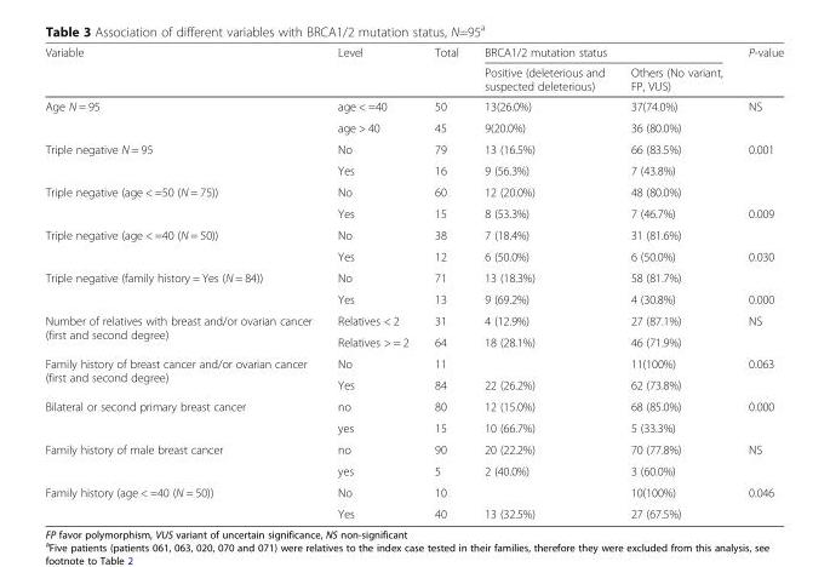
<table><thead><tr><td rowspan="2">Variable</td><td rowspan="2">Level</td><td rowspan="2">Total</td><td colspan="2">BRCA1/2 mutation status</td><td rowspan="2">P-value</td></tr><tr><td>Positive (deleterious and suspected deleterious)</td><td>Others (No variant, FP, VUS)</td></tr></thead><tbody><tr><td rowspan="2">Age N = 95</td><td>age &lt; =40</td><td>50</td><td>13(26.0%)</td><td>37(74.0%)</td><td>NS</td></tr><tr><td>age &gt; 40</td><td>45</td><td>9(20.0%)</td><td>36 (80.0%)</td><td></td></tr><tr><td rowspan="2">Triple negative N = 95</td><td>No</td><td>79</td><td>13 (16.5%)</td><td>66 (83.5%)</td><td>0.001</td></tr><tr><td>Yes</td><td>16</td><td>9 (56.3%)</td><td>7 (43.8%)</td><td></td></tr><tr><td rowspan="2">Triple negative (age &lt; =50 (N = 75))</td><td>No</td><td>60</td><td>12 (20.0%)</td><td>48 (80.0%)</td><td></td></tr><tr><td>Yes</td><td>15</td><td>8 (53.3%)</td><td>7 (46.7%)</td><td>0.009</td></tr><tr><td rowspan="2">Triple negative (age &lt; =40 (N = 50))</td><td>No</td><td>38</td><td>7 (18.4%)</td><td>31 (81.6%)</td><td></td></tr><tr><td>Yes</td><td>12</td><td>6 (50.0%)</td><td>6 (50.0%)</td><td>0.030</td></tr><tr><td rowspan="2">Triple negative (family history = Yes (N = 84))</td><td>No</td><td>71</td><td>13 (18.3%)</td><td>58 (81.7%)</td><td></td></tr><tr><td>Yes</td><td>13</td><td>9 (69.2%)</td><td>4 (30.8%)</td><td>0.000</td></tr><tr><td rowspan="2">Number of relatives with breast and/or ovarian cancer (first and second degree)</td><td>Relatives &lt; 2</td><td>31</td><td>4 (12.9%)</td><td>27 (87.1%)</td><td>NS</td></tr><tr><td>Relatives &gt; = 2</td><td>64</td><td>18 (28.1%)</td><td>46 (71.9%)</td><td></td></tr><tr><td rowspan="2">Family history of breast cancer and/or ovarian cancer (first and second degree)</td><td>No</td><td>11</td><td></td><td>11(100%)</td><td>0.063</td></tr><tr><td>Yes</td><td>84</td><td>22 (26.2%)</td><td>62 (73.8%)</td><td></td></tr><tr><td rowspan="2">Bilateral or second primary breast cancer</td><td>no</td><td>80</td><td>12 (15.0%)</td><td>68 (85.0%)</td><td>0.000</td></tr><tr><td>yes</td><td>15</td><td>10 (66.7%)</td><td>5 (33.3%)</td><td></td></tr><tr><td rowspan="2">Family history of male breast cancer</td><td>no</td><td>90</td><td>20 (22.2%)</td><td>70 (77.8%)</td><td>NS</td></tr><tr><td>yes</td><td>5</td><td>2 (40.0%)</td><td>3 (60.0%)</td><td></td></tr><tr><td rowspan="2">Family history (age &lt; =40 (N = 50))</td><td>No</td><td>10</td><td></td><td>10(100%)</td><td>0.046</td></tr><tr><td>Yes</td><td>40</td><td>13 (32.5%)</td><td>27 (67.5%)</td><td></td></tr></tbody></table>